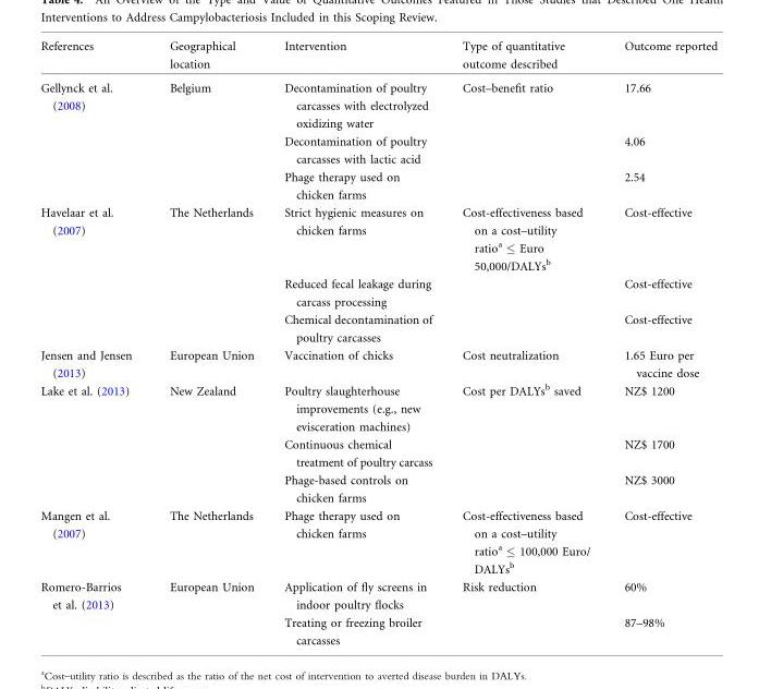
<table><thead><tr><td>References</td><td>Geographical location</td><td>Intervention</td><td>Type of quantitative outcome described</td><td>Outcome reported</td></tr></thead><tbody><tr><td rowspan="3">Gellynck et al. (2008)</td><td rowspan="3">Belgium</td><td>Decontamination of poultry carcasses with electrolyzed oxidizing water</td><td>Cost–benefit ratio</td><td>17.66</td></tr><tr><td>Decontamination of poultry carcasses with lactic acid</td><td></td><td>4.06</td></tr><tr><td>Phage therapy used on chicken farms</td><td></td><td>2.54</td></tr><tr><td rowspan="3">Havelaar et al. (2007)</td><td rowspan="3">The Netherlands</td><td>Strict hygienic measures on chicken farms</td><td>Cost-effectiveness based on a cost–utility ratio<sup>a</sup> ≤ Euro 50,000/DALYs<sup>b</sup></td><td>Cost-effective</td></tr><tr><td>Reduced fecal leakage during carcass processing</td><td></td><td>Cost-effective</td></tr><tr><td>Chemical decontamination of poultry carcasses</td><td></td><td>Cost-effective</td></tr><tr><td>Jensen and Jensen (2013)</td><td>European Union</td><td>Vaccination of chicks</td><td>Cost neutralization</td><td>1.65 Euro per vaccine dose</td></tr><tr><td rowspan="3">Lake et al. (2013)</td><td rowspan="3">New Zealand</td><td>Poultry slaughterhouse improvements (e.g., new evisceration machines)</td><td>Cost per DALYs<sup>b</sup> saved</td><td>NZ$ 1200</td></tr><tr><td>Continuous chemical treatment of poultry carcass</td><td></td><td>NZ$ 1700</td></tr><tr><td>Phage-based controls on chicken farms</td><td></td><td>NZ$ 3000</td></tr><tr><td>Mangen et al. (2007)</td><td>The Netherlands</td><td>Phage therapy used on chicken farms</td><td>Cost-effectiveness based on a cost–utility ratio<sup>a</sup> ≤ 100,000 Euro/ DALYs<sup>b</sup></td><td>Cost-effective</td></tr><tr><td rowspan="2">Romero-Barrios et al. (2013)</td><td rowspan="2">European Union</td><td>Application of fly screens in indoor poultry flocks</td><td>Risk reduction</td><td>60%</td></tr><tr><td>Treating or freezing broiler carcasses</td><td></td><td>87–98%</td></tr></tbody></table>